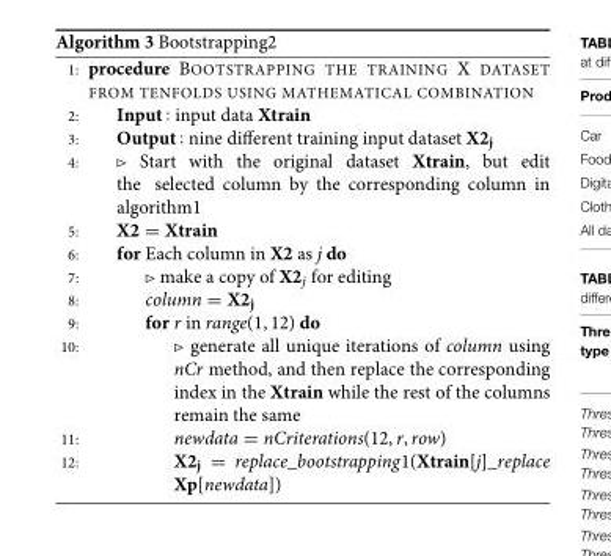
<table><tbody><tr><td>1:</td><td>procedure BOOTSTRAPPING THE TRAINING X DATASET FROM TENFOLDS USING MATHEMATICAL COMBINATION</td></tr><tr><td>2:</td><td>Input : input data Xtrain</td></tr><tr><td>3:</td><td>Output : nine different training input dataset X2<sub>j</sub></td></tr><tr><td>4:</td><td>⊲ Start with the original dataset Xtrain, but edit the selected column by the corresponding column in algorithm1</td></tr><tr><td>5:</td><td>X2 = Xtrain</td></tr><tr><td>6:</td><td>for Each column in X2 as j do</td></tr><tr><td>7:</td><td>⊲ make a copy of X2j for editing</td></tr><tr><td>8:</td><td>column = X2<sub>j</sub></td></tr><tr><td>9:</td><td>for r in range(1, 12) do</td></tr><tr><td>10:</td><td>⊲ generate all unique iterations of column using nCr method, and then replace the corresponding index in the Xtrain while the rest of the columns remain the same</td></tr><tr><td>11:</td><td>newdata = nCriterations(12, r, row)</td></tr><tr><td>12:</td><td>X2<sub>j</sub> = replace_bootstrapping1(Xtrain[j]_replace Xp[newdata])</td></tr></tbody></table>